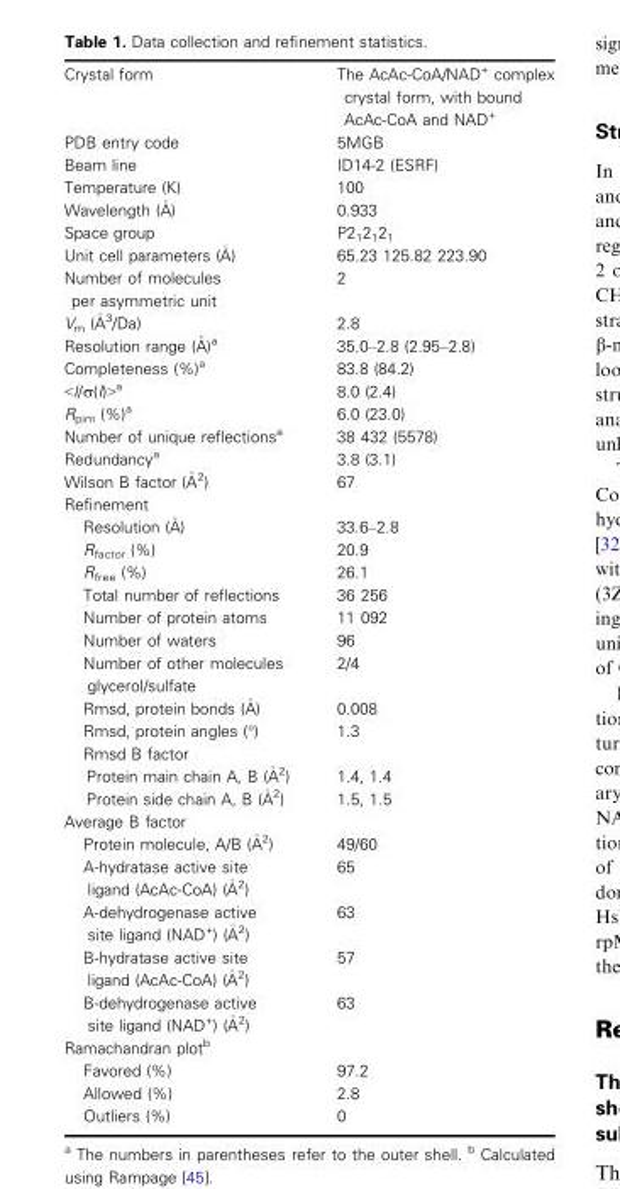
<table><tbody><tr><td>Crystal form</td><td>The AcAc-CoA/NAD<sup>+</sup> complex crystal form, with bound AcAc-CoA and NAD<sup>+</sup></td></tr><tr><td>PDB entry code</td><td>5MGB</td></tr><tr><td>Beam line</td><td>ID14-2 (ESRF)</td></tr><tr><td>Temperature (K)</td><td>100</td></tr><tr><td>Wavelength (�A)</td><td>0.933</td></tr><tr><td>Space group</td><td>P2<sub>1</sub>2<sub>1</sub>2<sub>1</sub></td></tr><tr><td>Unit cell parameters (�A)</td><td>65.23 125.82 223.90</td></tr><tr><td>Number of molecules per asymmetric unit</td><td>2</td></tr><tr><td>Vm (�A3/Da)</td><td>2.8</td></tr><tr><td>Resolution range (�A)a</td><td>35.0–2.8 (2.95–2.8)</td></tr><tr><td>Completeness (%)<sup>a</sup></td><td>83.8 (84.2)</td></tr><tr><td>&lt;I/σ(I)&gt;<sup>a</sup></td><td>8.0 (2.4)</td></tr><tr><td>R<sub>pim</sub> (%)<sup>a</sup></td><td>6.0 (23.0)</td></tr><tr><td>Number of unique reflections<sup>a</sup></td><td>38 432 (5578)</td></tr><tr><td>Redundancy<sup>a</sup></td><td>3.8 (3.1)</td></tr><tr><td>Wilson B factor (�A2)</td><td>67</td></tr><tr><td colspan="2">Refinement</td></tr><tr><td>Resolution (�A)</td><td>33.6–2.8</td></tr><tr><td>R<sub>factor</sub> (%)</td><td>20.9</td></tr><tr><td>R<sub>free</sub> (%)</td><td>26.1</td></tr><tr><td>Total number of reflections</td><td>36 256</td></tr><tr><td>Number of protein atoms</td><td>11 092</td></tr><tr><td>Number of waters</td><td>96</td></tr><tr><td>Number of other molecules glycerol/sulfate</td><td>2/4</td></tr><tr><td>Rmsd, protein bonds (�A)</td><td>0.008</td></tr><tr><td>Rmsd, protein angles (°)</td><td>1.3</td></tr><tr><td colspan="2">Rmsd B factor</td></tr><tr><td>Protein main chain A, B (�A2)</td><td>1.4, 1.4</td></tr><tr><td>Protein side chain A, B (�A2)</td><td>1.5, 1.5</td></tr><tr><td colspan="2">Average B factor</td></tr><tr><td>Protein molecule, A/B (�A2)</td><td>49/60</td></tr><tr><td>A-hydratase active site ligand (AcAc-CoA) (�A2)</td><td>65</td></tr><tr><td>A-dehydrogenase active site ligand (NAD+) (�A2)</td><td>63</td></tr><tr><td>B-hydratase active site ligand (AcAc-CoA) (�A2)</td><td>57</td></tr><tr><td>B-dehydrogenase active site ligand (NAD+) (�A2)</td><td>63</td></tr><tr><td colspan="2">Ramachandran plot<sup>b</sup></td></tr><tr><td>Favored (%)</td><td>97.2</td></tr><tr><td>Allowed (%)</td><td>2.8</td></tr><tr><td>Outliers (%)</td><td>0</td></tr></tbody></table>